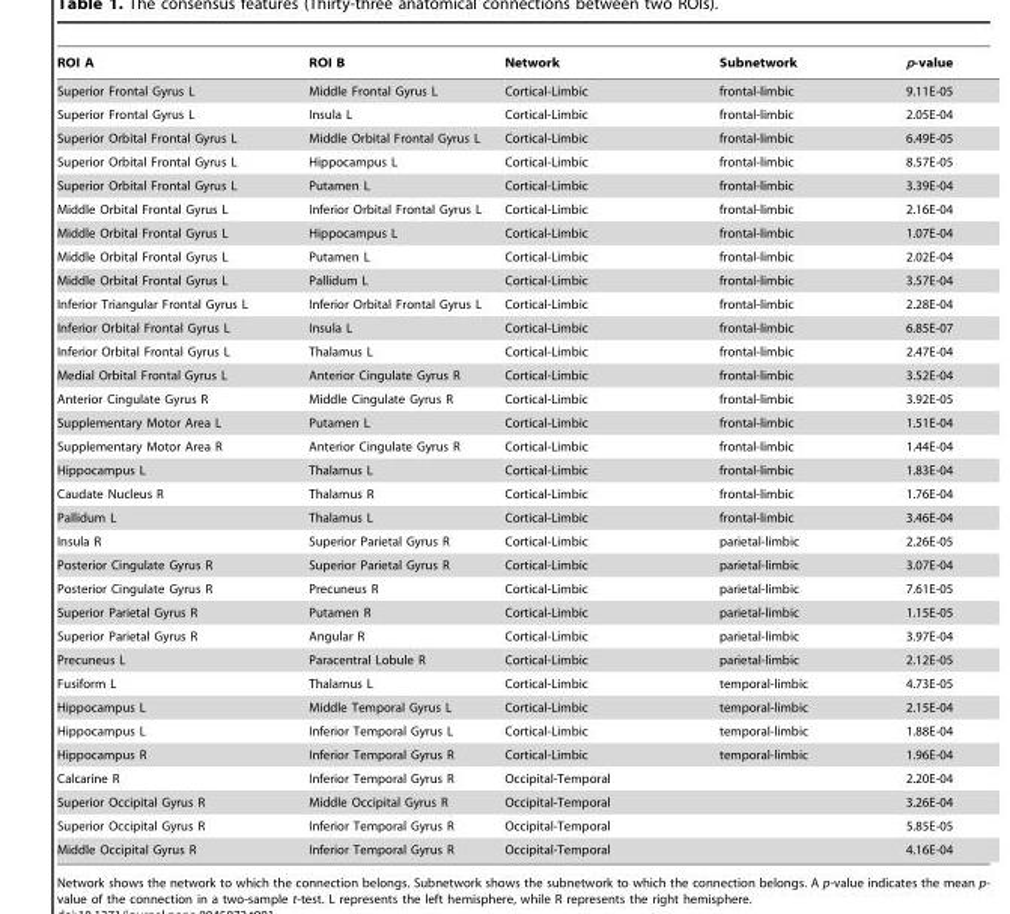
<table><thead><tr><td>ROI A</td><td>ROI B</td><td>Network</td><td>Subnetwork</td><td>p-value</td></tr></thead><tbody><tr><td>Superior Frontal Gyrus L</td><td>Middle Frontal Gyrus L</td><td>Cortical-Limbic</td><td>frontal-limbic</td><td>9.11E-05</td></tr><tr><td>Superior Frontal Gyrus L</td><td>Insula L</td><td>Cortical-Limbic</td><td>frontal-limbic</td><td>2.05E-04</td></tr><tr><td>Superior Orbital Frontal Gyrus L</td><td>Middle Orbital Frontal Gyrus L</td><td>Cortical-Limbic</td><td>frontal-limbic</td><td>6.49E-05</td></tr><tr><td>Superior Orbital Frontal Gyrus L</td><td>Hippocampus L</td><td>Cortical-Limbic</td><td>frontal-limbic</td><td>8.57E-05</td></tr><tr><td>Superior Orbital Frontal Gyrus L</td><td>Putamen L</td><td>Cortical-Limbic</td><td>frontal-limbic</td><td>3.39E-04</td></tr><tr><td>Middle Orbital Frontal Gyrus L</td><td>Inferior Orbital Frontal Gyrus L</td><td>Cortical-Limbic</td><td>frontal-limbic</td><td>2.16E-04</td></tr><tr><td>Middle Orbital Frontal Gyrus L</td><td>Hippocampus L</td><td>Cortical-Limbic</td><td>frontal-limbic</td><td>1.07E-04</td></tr><tr><td>Middle Orbital Frontal Gyrus L</td><td>Putamen L</td><td>Cortical-Limbic</td><td>frontal-limbic</td><td>2.02E-04</td></tr><tr><td>Middle Orbital Frontal Gyrus L</td><td>Pallidum L</td><td>Cortical-Limbic</td><td>frontal-limbic</td><td>3.57E-04</td></tr><tr><td>Inferior Triangular Frontal Gyrus L</td><td>Inferior Orbital Frontal Gyrus L</td><td>Cortical-Limbic</td><td>frontal-limbic</td><td>2.28E-04</td></tr><tr><td>Inferior Orbital Frontal Gyrus L</td><td>Insula L</td><td>Cortical-Limbic</td><td>frontal-limbic</td><td>6.85E-07</td></tr><tr><td>Inferior Orbital Frontal Gyrus L</td><td>Thalamus L</td><td>Cortical-Limbic</td><td>frontal-limbic</td><td>2.47E-04</td></tr><tr><td>Medial Orbital Frontal Gyrus L</td><td>Anterior Cingulate Gyrus R</td><td>Cortical-Limbic</td><td>frontal-limbic</td><td>3.52E-04</td></tr><tr><td>Anterior Cingulate Gyrus R</td><td>Middle Cingulate Gyrus R</td><td>Cortical-Limbic</td><td>frontal-limbic</td><td>3.92E-05</td></tr><tr><td>Supplementary Motor Area L</td><td>Putamen L</td><td>Cortical-Limbic</td><td>frontal-limbic</td><td>1.51E-04</td></tr><tr><td>Supplementary Motor Area R</td><td>Anterior Cingulate Gyrus R</td><td>Cortical-Limbic</td><td>frontal-limbic</td><td>1.44E-04</td></tr><tr><td>Hippocampus L</td><td>Thalamus L</td><td>Cortical-Limbic</td><td>frontal-limbic</td><td>1.83E-04</td></tr><tr><td>Caudate Nucleus R</td><td>Thalamus R</td><td>Cortical-Limbic</td><td>frontal-limbic</td><td>1.76E-04</td></tr><tr><td>Pallidum L</td><td>Thalamus L</td><td>Cortical-Limbic</td><td>frontal-limbic</td><td>3.46E-04</td></tr><tr><td>Insula R</td><td>Superior Parietal Gyrus R</td><td>Cortical-Limbic</td><td>parietal-limbic</td><td>2.26E-05</td></tr><tr><td>Posterior Cingulate Gyrus R</td><td>Superior Parietal Gyrus R</td><td>Cortical-Limbic</td><td>parietal-limbic</td><td>3.07E-04</td></tr><tr><td>Posterior Cingulate Gyrus R</td><td>Precuneus R</td><td>Cortical-Limbic</td><td>parietal-limbic</td><td>7.61E-05</td></tr><tr><td>Superior Parietal Gyrus R</td><td>Putamen R</td><td>Cortical-Limbic</td><td>parietal-limbic</td><td>1.15E-05</td></tr><tr><td>Superior Parietal Gyrus R</td><td>Angular R</td><td>Cortical-Limbic</td><td>parietal-limbic</td><td>3.97E-04</td></tr><tr><td>Precuneus L</td><td>Paracentral Lobule R</td><td>Cortical-Limbic</td><td>parietal-limbic</td><td>2.12E-05</td></tr><tr><td>Fusiform L</td><td>Thalamus L</td><td>Cortical-Limbic</td><td>temporal-limbic</td><td>4.73E-05</td></tr><tr><td>Hippocampus L</td><td>Middle Temporal Gyrus L</td><td>Cortical-Limbic</td><td>temporal-limbic</td><td>2.15E-04</td></tr><tr><td>Hippocampus L</td><td>Inferior Temporal Gyrus L</td><td>Cortical-Limbic</td><td>temporal-limbic</td><td>1.88E-04</td></tr><tr><td>Hippocampus R</td><td>Inferior Temporal Gyrus R</td><td>Cortical-Limbic</td><td>temporal-limbic</td><td>1.96E-04</td></tr><tr><td>Calcarine R</td><td>Inferior Temporal Gyrus R</td><td>Occipital-Temporal</td><td></td><td>2.20E-04</td></tr><tr><td>Superior Occipital Gyrus R</td><td>Middle Occipital Gyrus R</td><td>Occipital-Temporal</td><td></td><td>3.26E-04</td></tr><tr><td>Superior Occipital Gyrus R</td><td>Inferior Temporal Gyrus R</td><td>Occipital-Temporal</td><td></td><td>5.85E-05</td></tr><tr><td>Middle Occipital Gyrus R</td><td>Inferior Temporal Gyrus R</td><td>Occipital-Temporal</td><td></td><td>4.16E-04</td></tr></tbody></table>